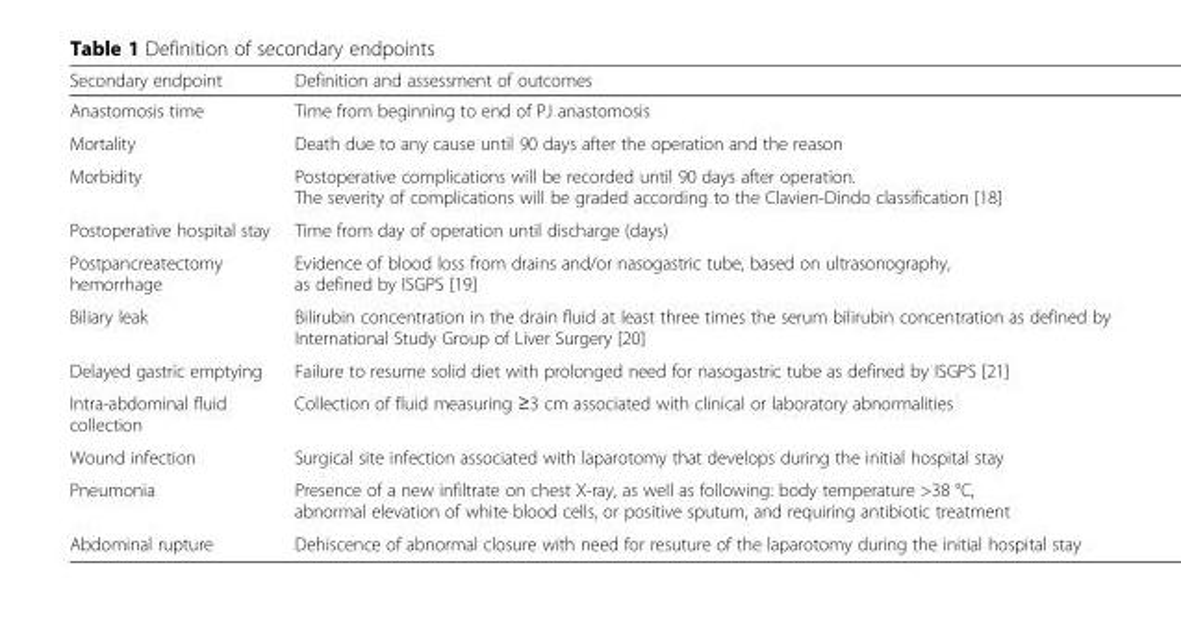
<table><thead><tr><td>Secondary endpoint</td><td>Definition and assessment of outcomes</td></tr></thead><tbody><tr><td>Anastomosis time</td><td>Time from beginning to end of PJ anastomosis</td></tr><tr><td>Mortality</td><td>Death due to any cause until 90 days after the operation and the reason</td></tr><tr><td>Morbidity</td><td>Postoperative complications will be recorded until 90 days after operation. The severity of complications will be graded according to the Clavien-Dindo classification [18]</td></tr><tr><td>Postoperative hospital stay</td><td>Time from day of operation until discharge (days)</td></tr><tr><td>Postpancreatectomy hemorrhage</td><td>Evidence of blood loss from drains and/or nasogastric tube, based on ultrasonography, as defined by ISGPS [19]</td></tr><tr><td>Biliary leak</td><td>Bilirubin concentration in the drain fluid at least three times the serum bilirubin concentration as defined by International Study Group of Liver Surgery [20]</td></tr><tr><td>Delayed gastric emptying</td><td>Failure to resume solid diet with prolonged need for nasogastric tube as defined by ISGPS [21]</td></tr><tr><td>Intra-abdominal fluid collection</td><td>Collection of fluid measuring ≥3 cm associated with clinical or laboratory abnormalities</td></tr><tr><td>Wound infection</td><td>Surgical site infection associated with laparotomy that develops during the initial hospital stay</td></tr><tr><td>Pneumonia</td><td>Presence of a new infiltrate on chest X-ray, as well as following: body temperature &gt;38 °C, abnormal elevation of white blood cells, or positive sputum, and requiring antibiotic treatment</td></tr><tr><td>Abdominal rupture</td><td>Dehiscence of abnormal closure with need for resuture of the laparotomy during the initial hospital stay</td></tr></tbody></table>